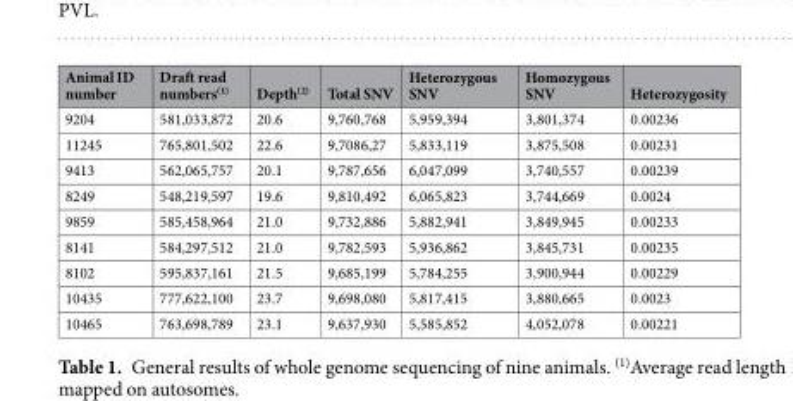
<table><thead><tr><td>Animal ID number</td><td>Draft read numbers<sup>(1)</sup></td><td>Depth<sup>(2)</sup></td><td>Total SNV</td><td>Heterozygous SNV</td><td>Homozygous SNV</td><td>Heterozygosity</td></tr></thead><tbody><tr><td>9204</td><td>581,033,872</td><td>20.6</td><td>9,760,768</td><td>5,959,394</td><td>3,801,374</td><td>0.00236</td></tr><tr><td>11245</td><td>765,801,502</td><td>22.6</td><td>9,7086,27</td><td>5,833,119</td><td>3,875,508</td><td>0.00231</td></tr><tr><td>9413</td><td>562,065,757</td><td>20.1</td><td>9,787,656</td><td>6,047,099</td><td>3,740,557</td><td>0.00239</td></tr><tr><td>8249</td><td>548,219,597</td><td>19.6</td><td>9,810,492</td><td>6,065,823</td><td>3,744,669</td><td>0.0024</td></tr><tr><td>9859</td><td>585,458,964</td><td>21.0</td><td>9,732,886</td><td>5,882,941</td><td>3,849,945</td><td>0.00233</td></tr><tr><td>8141</td><td>584,297,512</td><td>21.0</td><td>9,782,593</td><td>5,936,862</td><td>3,845,731</td><td>0.00235</td></tr><tr><td>8102</td><td>595,837,161</td><td>21.5</td><td>9,685,199</td><td>5,784,255</td><td>3,900,944</td><td>0.00229</td></tr><tr><td>10435</td><td>777,622,100</td><td>23.7</td><td>9,698,080</td><td>5,817,415</td><td>3,880,665</td><td>0.0023</td></tr><tr><td>10465</td><td>763,698,789</td><td>23.1</td><td>9,637,930</td><td>5,585,852</td><td>4,052,078</td><td>0.00221</td></tr></tbody></table>